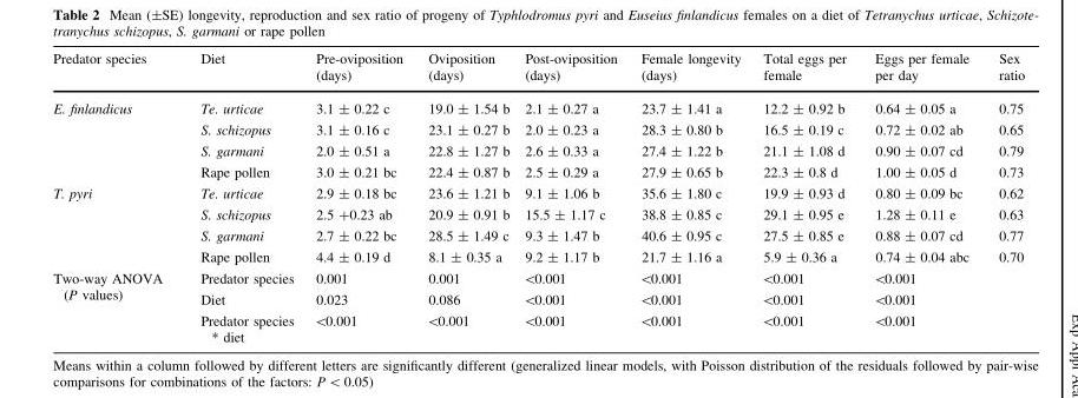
<table><thead><tr><td>Predator species</td><td>Diet</td><td>Pre-oviposition (days)</td><td>Oviposition (days)</td><td>Post-oviposition (days)</td><td>Female longevity (days)</td><td>Total eggs per female</td><td>Eggs per female per day</td><td>Sex ratio</td></tr></thead><tbody><tr><td rowspan="4">E. finlandicus</td><td>Te. urticae</td><td>3.1 ± 0.22 c</td><td>19.0 ± 1.54 b</td><td>2.1 ± 0.27 a</td><td>23.7 ± 1.41 a</td><td>12.2 ± 0.92 b</td><td>0.64 ± 0.05 a</td><td>0.75</td></tr><tr><td>S. schizopus</td><td>3.1 ± 0.16 c</td><td>23.1 ± 0.27 b</td><td>2.0 ± 0.23 a</td><td>28.3 ± 0.80 b</td><td>16.5 ± 0.19 c</td><td>0.72 ± 0.02 ab</td><td>0.65</td></tr><tr><td>S. garmani</td><td>2.0 ± 0.51 a</td><td>22.8 ± 1.27 b</td><td>2.6 ± 0.33 a</td><td>27.4 ± 1.22 b</td><td>21.1 ± 1.08 d</td><td>0.90 ± 0.07 cd</td><td>0.79</td></tr><tr><td>Rape pollen</td><td>3.0 ± 0.21 bc</td><td>22.4 ± 0.87 b</td><td>2.5 ± 0.29 a</td><td>27.9 ± 0.65 b</td><td>22.3 ± 0.8 d</td><td>1.00 ± 0.05 d</td><td>0.73</td></tr><tr><td rowspan="4">T. pyri</td><td>Te. urticae</td><td>2.9 ± 0.18 bc</td><td>23.6 ± 1.21 b</td><td>9.1 ± 1.06 b</td><td>35.6 ± 1.80 c</td><td>19.9 ± 0.93 d</td><td>0.80 ± 0.09 bc</td><td>0.62</td></tr><tr><td>S. schizopus</td><td>2.5 +0.23 ab</td><td>20.9 ± 0.91 b</td><td>15.5 ± 1.17 c</td><td>38.8 ± 0.85 c</td><td>29.1 ± 0.95 e</td><td>1.28 ± 0.11 e</td><td>0.63</td></tr><tr><td>S. garmani</td><td>2.7 ± 0.22 bc</td><td>28.5 ± 1.49 c</td><td>9.3 ± 1.47 b</td><td>40.6 ± 0.95 c</td><td>27.5 ± 0.85 e</td><td>0.88 ± 0.07 cd</td><td>0.77</td></tr><tr><td>Rape pollen</td><td>4.4 ± 0.19 d</td><td>8.1 ± 0.35 a</td><td>9.2 ± 1.17 b</td><td>21.7 ± 1.16 a</td><td>5.9 ± 0.36 a</td><td>0.74 ± 0.04 abc</td><td>0.70</td></tr><tr><td rowspan="3">Two-way ANOVA (P values)</td><td>Predator species</td><td>0.001</td><td>0.001</td><td>&lt;0.001</td><td>&lt;0.001</td><td>&lt;0.001</td><td>&lt;0.001</td><td></td></tr><tr><td>Diet</td><td>0.023</td><td>0.086</td><td>&lt;0.001</td><td>&lt;0.001</td><td>&lt;0.001</td><td>&lt;0.001</td><td></td></tr><tr><td>Predator species * diet</td><td>&lt;0.001</td><td>&lt;0.001</td><td>&lt;0.001</td><td>&lt;0.001</td><td>&lt;0.001</td><td>&lt;0.001</td><td></td></tr></tbody></table>